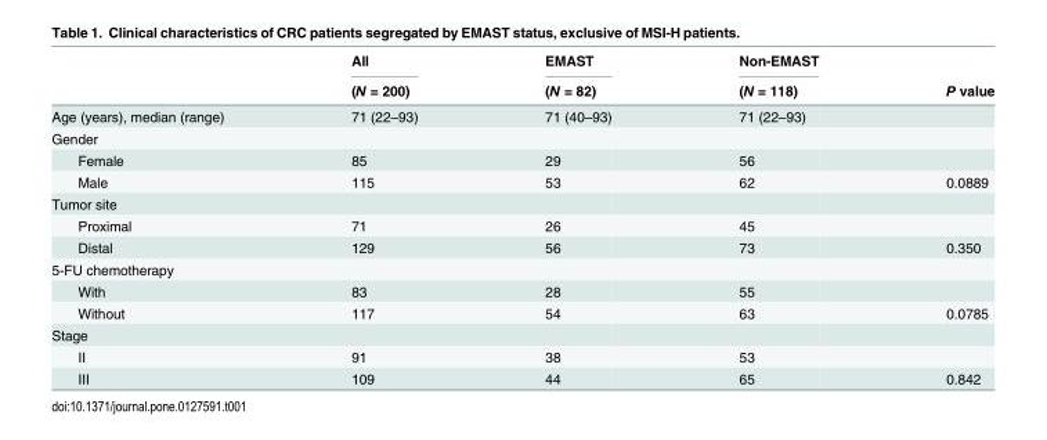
<table><thead><tr><td rowspan="2"></td><td rowspan="2">All (N = 200)</td><td rowspan="2">EMAST (N = 82)</td><td rowspan="2">Non-EMAST (N = 118)</td><td rowspan="2">P value</td></tr><tr></tr></thead><tbody><tr><td>Age (years), median (range)</td><td>71 (22–93)</td><td>71 (40–93)</td><td>71 (22–93)</td><td></td></tr><tr><td colspan="5">Gender</td></tr><tr><td>Female</td><td>85</td><td>29</td><td>56</td><td></td></tr><tr><td>Male</td><td>115</td><td>53</td><td>62</td><td>0.0889</td></tr><tr><td colspan="5">Tumor site</td></tr><tr><td>Proximal</td><td>71</td><td>26</td><td>45</td><td></td></tr><tr><td>Distal</td><td>129</td><td>56</td><td>73</td><td>0.350</td></tr><tr><td colspan="5">5-FU chemotherapy</td></tr><tr><td>With</td><td>83</td><td>28</td><td>55</td><td></td></tr><tr><td>Without</td><td>117</td><td>54</td><td>63</td><td>0.0785</td></tr><tr><td colspan="5">Stage</td></tr><tr><td>II</td><td>91</td><td>38</td><td>53</td><td></td></tr><tr><td>III</td><td>109</td><td>44</td><td>65</td><td>0.842</td></tr></tbody></table>